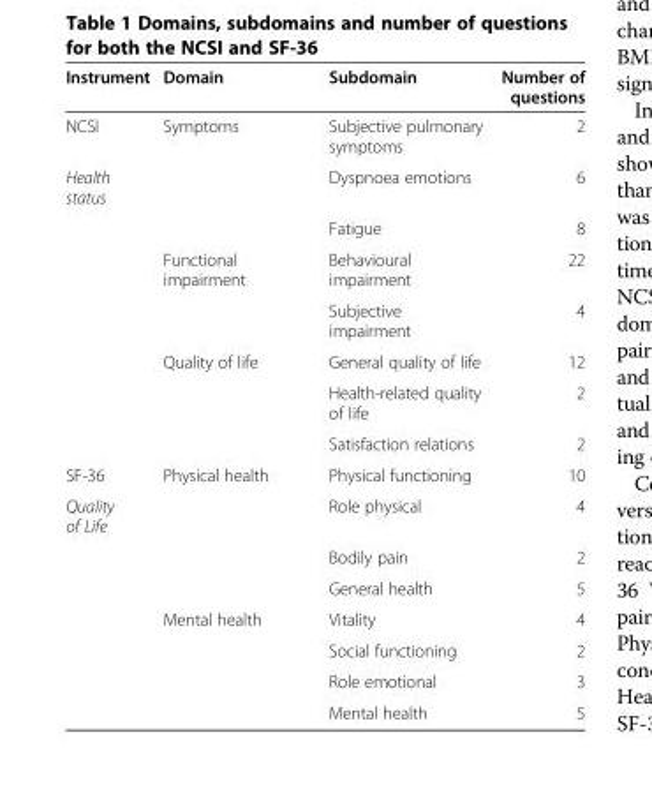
<table><thead><tr><td>Instrument</td><td>Domain</td><td>Subdomain</td><td>Number of questions</td></tr></thead><tbody><tr><td>NCSI</td><td>Symptoms</td><td>Subjective pulmonary symptoms</td><td>2</td></tr><tr><td rowspan="7">Health status</td><td></td><td>Dyspnoea emotions</td><td>6</td></tr><tr><td></td><td>Fatigue</td><td>8</td></tr><tr><td>Functional impairment</td><td>Behavioural impairment</td><td>22</td></tr><tr><td></td><td>Subjective impairment</td><td>4</td></tr><tr><td>Quality of life</td><td>General quality of life</td><td>12</td></tr><tr><td></td><td>Health-related quality of life</td><td>2</td></tr><tr><td></td><td>Satisfaction relations</td><td>2</td></tr><tr><td>SF-36</td><td>Physical health</td><td>Physical functioning</td><td>10</td></tr><tr><td rowspan="7">Quality of Life</td><td></td><td>Role physical</td><td>4</td></tr><tr><td></td><td>Bodily pain</td><td>2</td></tr><tr><td></td><td>General health</td><td>5</td></tr><tr><td>Mental health</td><td>Vitality</td><td>4</td></tr><tr><td></td><td>Social functioning</td><td>2</td></tr><tr><td></td><td>Role emotional</td><td>3</td></tr><tr><td></td><td>Mental health</td><td>5</td></tr></tbody></table>